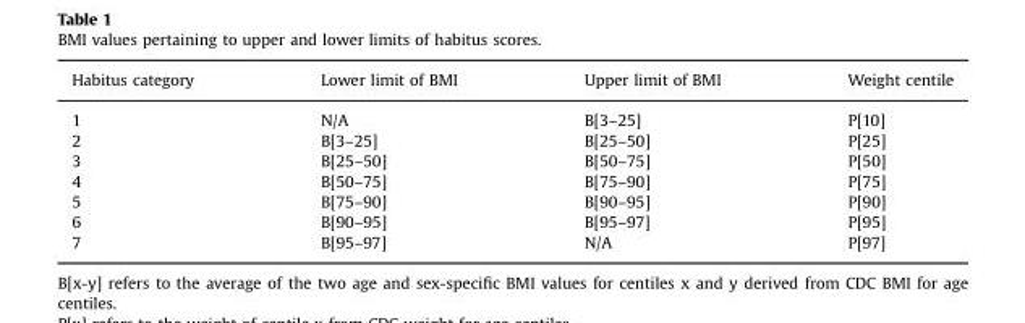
<table><thead><tr><td>Habitus category</td><td>Lower limit of BMI</td><td>Upper limit of BMI</td><td>Weight centile</td></tr></thead><tbody><tr><td>1</td><td>N/A</td><td>B[3–25]</td><td>P[10]</td></tr><tr><td>2</td><td>B[3–25]</td><td>B[25–50]</td><td>P[25]</td></tr><tr><td>3</td><td>B[25–50]</td><td>B[50–75]</td><td>P[50]</td></tr><tr><td>4</td><td>B[50–75]</td><td>B[75–90]</td><td>P[75]</td></tr><tr><td>5</td><td>B[75–90]</td><td>B[90–95]</td><td>P[90]</td></tr><tr><td>6</td><td>B[90–95]</td><td>B[95–97]</td><td>P[95]</td></tr><tr><td>7</td><td>B[95–97]</td><td>N/A</td><td>P[97]</td></tr></tbody></table>